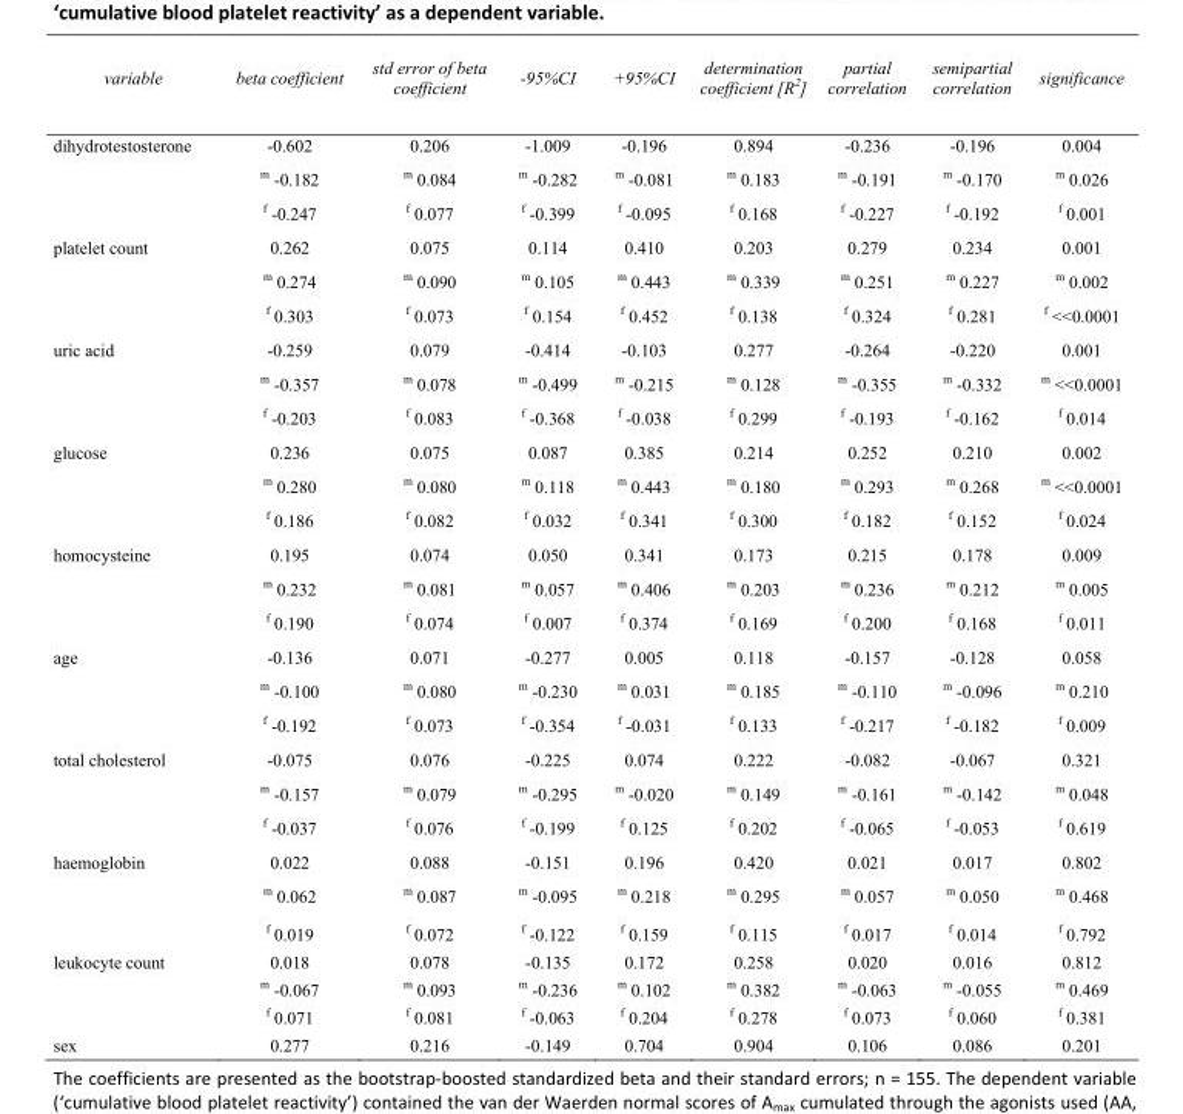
<table><tbody><tr><td>variable</td><td>beta coefficient</td><td>std error of beta coefficient</td><td>-95%CI</td><td>+95%CI</td><td>determination coefficient [R<sup>2</sup>]</td><td>partial correlation</td><td>semipartial correlation</td><td>significance</td></tr><tr><td rowspan="3">dihydrotestosterone</td><td>-0.602</td><td>0.206</td><td>-1.009</td><td>-0.196</td><td>0.894</td><td>-0.236</td><td>-0.196</td><td>0.004</td></tr><tr><td><sup>m</sup> -0.182</td><td><sup>m</sup> 0.084</td><td><sup>m</sup> -0.282</td><td><sup>m</sup> -0.081</td><td><sup>m</sup> 0.183</td><td><sup>m</sup> -0.191</td><td><sup>m</sup> -0.170</td><td><sup>m</sup> 0.026</td></tr><tr><td><sup>f</sup> -0.247</td><td><sup>f</sup> 0.077</td><td><sup>f</sup> -0.399</td><td><sup>f</sup> -0.095</td><td><sup>f</sup> 0.168</td><td><sup>f</sup> -0.227</td><td><sup>f</sup> -0.192</td><td><sup>f</sup> 0.001</td></tr><tr><td rowspan="3">platelet count</td><td>0.262</td><td>0.075</td><td>0.114</td><td>0.410</td><td>0.203</td><td>0.279</td><td>0.234</td><td>0.001</td></tr><tr><td><sup>m</sup> 0.274</td><td><sup>m</sup> 0.090</td><td><sup>m</sup> 0.105</td><td><sup>m</sup> 0.443</td><td><sup>m</sup> 0.339</td><td><sup>m</sup> 0.251</td><td><sup>m</sup> 0.227</td><td><sup>m</sup> 0.002</td></tr><tr><td><sup>f</sup> 0.303</td><td><sup>f</sup> 0.073</td><td><sup>f</sup> 0.154</td><td><sup>f</sup> 0.452</td><td><sup>f</sup> 0.138</td><td><sup>f</sup> 0.324</td><td><sup>f</sup> 0.281</td><td><sup>f</sup> &lt;&lt;0.0001</td></tr><tr><td rowspan="3">uric acid</td><td>-0.259</td><td>0.079</td><td>-0.414</td><td>-0.103</td><td>0.277</td><td>-0.264</td><td>-0.220</td><td>0.001</td></tr><tr><td><sup>m</sup> -0.357</td><td><sup>m</sup> 0.078</td><td><sup>m</sup> -0.499</td><td><sup>m</sup> -0.215</td><td><sup>m</sup> 0.128</td><td><sup>m</sup> -0.355</td><td><sup>m</sup> -0.332</td><td><sup>m</sup> &lt;&lt;0.0001</td></tr><tr><td><sup>f</sup> -0.203</td><td><sup>f</sup> 0.083</td><td><sup>f</sup> -0.368</td><td><sup>f</sup> -0.038</td><td><sup>f</sup> 0.299</td><td><sup>f</sup> -0.193</td><td><sup>f</sup> -0.162</td><td><sup>f</sup> 0.014</td></tr><tr><td rowspan="3">glucose</td><td>0.236</td><td>0.075</td><td>0.087</td><td>0.385</td><td>0.214</td><td>0.252</td><td>0.210</td><td>0.002</td></tr><tr><td><sup>m</sup> 0.280</td><td><sup>m</sup> 0.080</td><td><sup>m</sup> 0.118</td><td><sup>m</sup> 0.443</td><td><sup>m</sup> 0.180</td><td><sup>m</sup> 0.293</td><td><sup>m</sup> 0.268</td><td><sup>m</sup> &lt;&lt;0.0001</td></tr><tr><td><sup>f</sup> 0.186</td><td><sup>f</sup> 0.082</td><td><sup>f</sup> 0.032</td><td><sup>f</sup> 0.341</td><td><sup>f</sup> 0.300</td><td><sup>f</sup> 0.182</td><td><sup>f</sup> 0.152</td><td><sup>f</sup> 0.024</td></tr><tr><td rowspan="3">homocysteine</td><td>0.195</td><td>0.074</td><td>0.050</td><td>0.341</td><td>0.173</td><td>0.215</td><td>0.178</td><td>0.009</td></tr><tr><td><sup>m</sup> 0.232</td><td><sup>m</sup> 0.081</td><td><sup>m</sup> 0.057</td><td><sup>m</sup> 0.406</td><td><sup>m</sup> 0.203</td><td><sup>m</sup> 0.236</td><td><sup>m</sup> 0.212</td><td><sup>m</sup> 0.005</td></tr><tr><td><sup>f</sup> 0.190</td><td><sup>f</sup> 0.074</td><td><sup>f</sup> 0.007</td><td><sup>f</sup> 0.374</td><td><sup>f</sup> 0.169</td><td><sup>f</sup> 0.200</td><td><sup>f</sup> 0.168</td><td><sup>f</sup> 0.011</td></tr><tr><td rowspan="3">age</td><td>-0.136</td><td>0.071</td><td>-0.277</td><td>0.005</td><td>0.118</td><td>-0.157</td><td>-0.128</td><td>0.058</td></tr><tr><td><sup>m</sup> -0.100</td><td><sup>m</sup> 0.080</td><td><sup>m</sup> -0.230</td><td><sup>m</sup> 0.031</td><td><sup>m</sup> 0.185</td><td><sup>m</sup> -0.110</td><td><sup>m</sup> -0.096</td><td><sup>m</sup> 0.210</td></tr><tr><td><sup>f</sup> -0.192</td><td><sup>f</sup> 0.073</td><td><sup>f</sup> -0.354</td><td><sup>f</sup> -0.031</td><td><sup>f</sup> 0.133</td><td><sup>f</sup> -0.217</td><td><sup>f</sup> -0.182</td><td><sup>f</sup> 0.009</td></tr><tr><td rowspan="3">total cholesterol</td><td>-0.075</td><td>0.076</td><td>-0.225</td><td>0.074</td><td>0.222</td><td>-0.082</td><td>-0.067</td><td>0.321</td></tr><tr><td><sup>m</sup> -0.157</td><td><sup>m</sup> 0.079</td><td><sup>m</sup> -0.295</td><td><sup>m</sup> -0.020</td><td><sup>m</sup> 0.149</td><td><sup>m</sup> -0.161</td><td><sup>m</sup> -0.142</td><td><sup>m</sup> 0.048</td></tr><tr><td><sup>f</sup> -0.037</td><td><sup>f</sup> 0.076</td><td><sup>f</sup> -0.199</td><td><sup>f</sup> 0.125</td><td><sup>f</sup> 0.202</td><td><sup>f</sup> -0.065</td><td><sup>f</sup> -0.053</td><td><sup>f</sup> 0.619</td></tr><tr><td rowspan="3">haemoglobin</td><td>0.022</td><td>0.088</td><td>-0.151</td><td>0.196</td><td>0.420</td><td>0.021</td><td>0.017</td><td>0.802</td></tr><tr><td>m 0.062</td><td>m 0.087</td><td>m -0.095</td><td>m 0.218</td><td>m 0.295</td><td>m 0.057</td><td>m 0.050</td><td>m 0.468</td></tr><tr><td><sup>f</sup> 0.019</td><td><sup>f</sup> 0.072</td><td><sup>f</sup> -0.122</td><td><sup>f</sup> 0.159</td><td><sup>f</sup> 0.115</td><td><sup>f</sup> 0.017</td><td><sup>f</sup> 0.014</td><td><sup>f</sup> 0.792</td></tr><tr><td rowspan="3">leukocyte count</td><td>0.018</td><td>0.078</td><td>-0.135</td><td>0.172</td><td>0.258</td><td>0.020</td><td>0.016</td><td>0.812</td></tr><tr><td><sup>m</sup> -0.067</td><td><sup>m</sup> 0.093</td><td><sup>m</sup> -0.236</td><td><sup>m</sup> 0.102</td><td><sup>m</sup> 0.382</td><td><sup>m</sup> -0.063</td><td><sup>m</sup> -0.055</td><td><sup>m</sup> 0.469</td></tr><tr><td><sup>f</sup> 0.071</td><td><sup>f</sup> 0.081</td><td><sup>f</sup> -0.063</td><td><sup>f</sup> 0.204</td><td><sup>f</sup> 0.278</td><td><sup>f</sup> 0.073</td><td><sup>f</sup> 0.060</td><td><sup>f</sup> 0.381</td></tr><tr><td>sex</td><td>0.277</td><td>0.216</td><td>-0.149</td><td>0.704</td><td>0.904</td><td>0.106</td><td>0.086</td><td>0.201</td></tr></tbody></table>